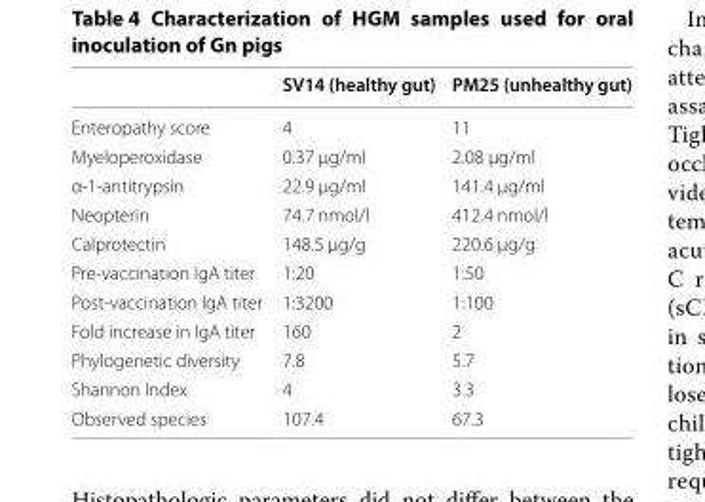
<table><thead><tr><td></td><td>SV14 (healthy gut)</td><td>PM25 (unhealthy gut)</td></tr></thead><tbody><tr><td>Enteropathy score</td><td>4</td><td>11</td></tr><tr><td>Myeloperoxidase</td><td>0.37 μg/ml</td><td>2.08 μg/ml</td></tr><tr><td>α‑1‑antitrypsin</td><td>22.9 μg/ml</td><td>141.4 μg/ml</td></tr><tr><td>Neopterin</td><td>74.7 nmol/l</td><td>412.4 nmol/l</td></tr><tr><td>Calprotectin</td><td>148.5 μg/g</td><td>220.6 μg/g</td></tr><tr><td>Pre‑vaccination IgA titer</td><td>1:20</td><td>1:50</td></tr><tr><td>Post‑vaccination IgA titer</td><td>1:3200</td><td>1:100</td></tr><tr><td>Fold increase in IgA titer</td><td>160</td><td>2</td></tr><tr><td>Phylogenetic diversity</td><td>7.8</td><td>5.7</td></tr><tr><td>Shannon Index</td><td>4</td><td>3.3</td></tr><tr><td>Observed species</td><td>107.4</td><td>67.3</td></tr></tbody></table>